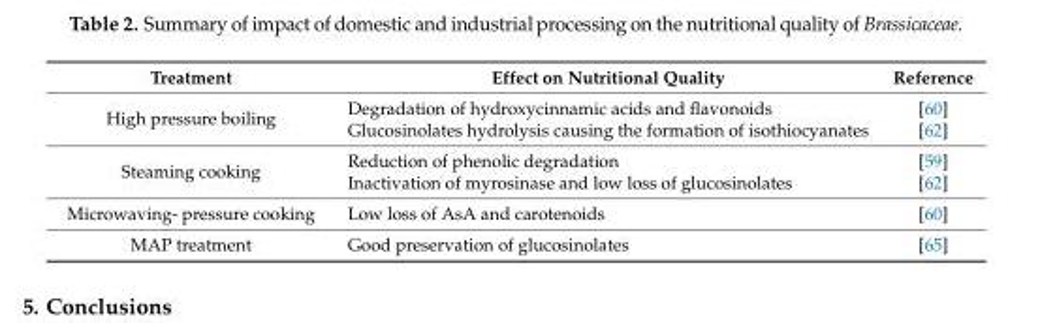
<table><thead><tr><td>Treatment</td><td>Effect on Nutritional Quality</td><td>Reference</td></tr></thead><tbody><tr><td rowspan="2">High pressure boiling</td><td>Degradation of hydroxycinnamic acids and flavonoids</td><td>[60]</td></tr><tr><td>Glucosinolates hydrolysis causing the formation of isothiocyanates</td><td>[62]</td></tr><tr><td rowspan="2">Steaming cooking</td><td>Reduction of phenolic degradation</td><td>[59]</td></tr><tr><td>Inactivation of myrosinase and low loss of glucosinolates</td><td>[62]</td></tr><tr><td>Microwaving- pressure cooking</td><td>Low loss of AsA and carotenoids</td><td>[60]</td></tr><tr><td>MAP treatment</td><td>Good preservation of glucosinolates</td><td>[65]</td></tr></tbody></table>